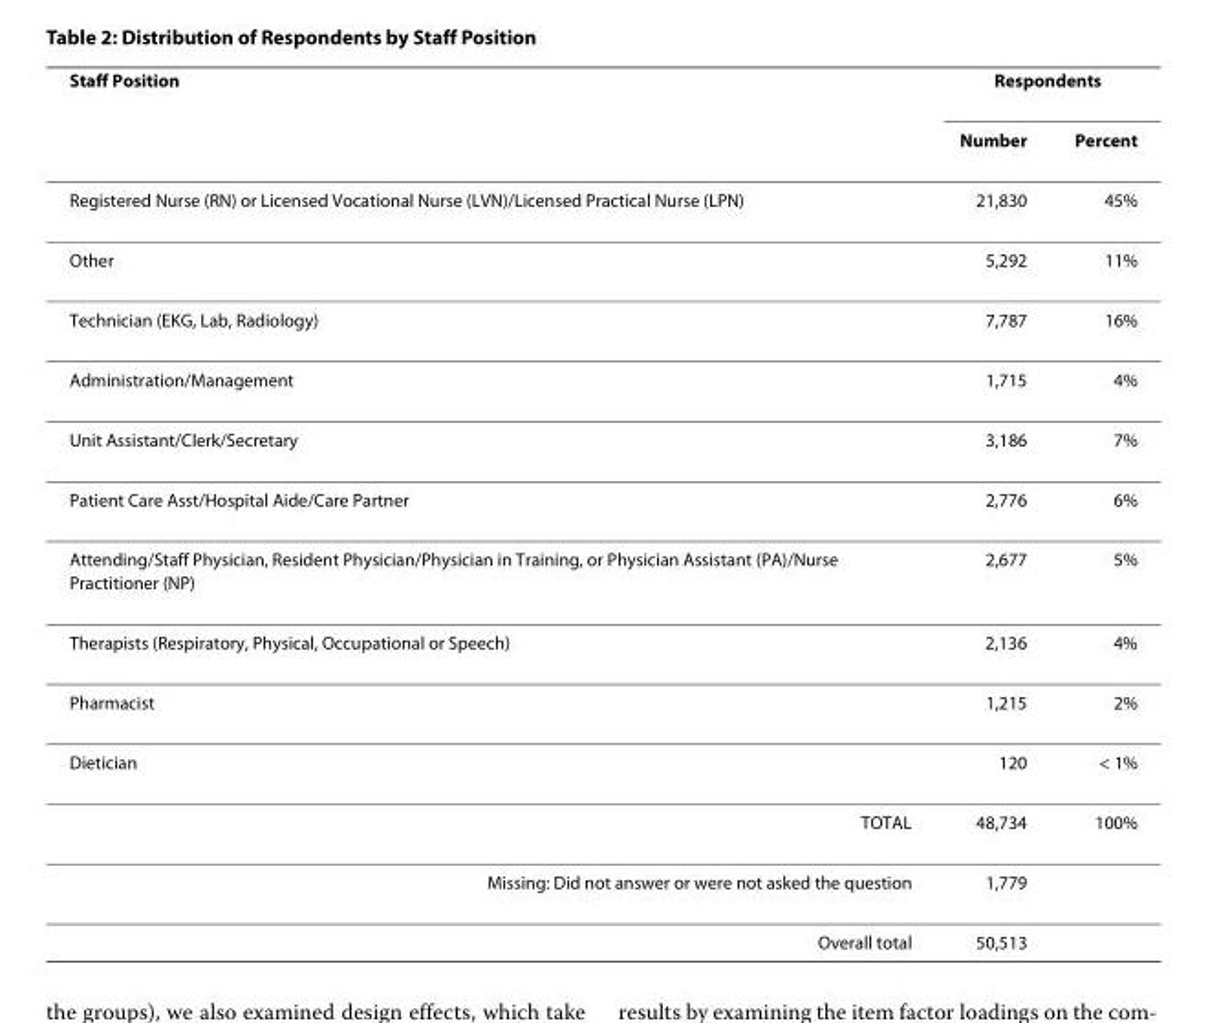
<table><thead><tr><td rowspan="2">Staff Position</td><td colspan="2">Respondents</td></tr><tr><td>Number</td><td>Percent</td></tr></thead><tbody><tr><td>Registered Nurse (RN) or Licensed Vocational Nurse (LVN)/Licensed Practical Nurse (LPN)</td><td>21,830</td><td>45%</td></tr><tr><td>Other</td><td>5,292</td><td>11%</td></tr><tr><td>Technician (EKG, Lab, Radiology)</td><td>7,787</td><td>16%</td></tr><tr><td>Administration/Management</td><td>1,715</td><td>4%</td></tr><tr><td>Unit Assistant/Clerk/Secretary</td><td>3,186</td><td>7%</td></tr><tr><td>Patient Care Asst/Hospital Aide/Care Partner</td><td>2,776</td><td>6%</td></tr><tr><td>Attending/Staff Physician, Resident Physician/Physician in Training, or Physician Assistant (PA)/Nurse Practitioner (NP)</td><td>2,677</td><td>5%</td></tr><tr><td>Therapists (Respiratory, Physical, Occupational or Speech)</td><td>2,136</td><td>4%</td></tr><tr><td>Pharmacist</td><td>1,215</td><td>2%</td></tr><tr><td>Dietician</td><td>120</td><td>&lt; 1%</td></tr><tr><td>TOTAL</td><td>48,734</td><td>100%</td></tr><tr><td>Missing: Did not answer or were not asked the question</td><td>1,779</td><td></td></tr><tr><td>Overall total</td><td>50,513</td><td></td></tr></tbody></table>